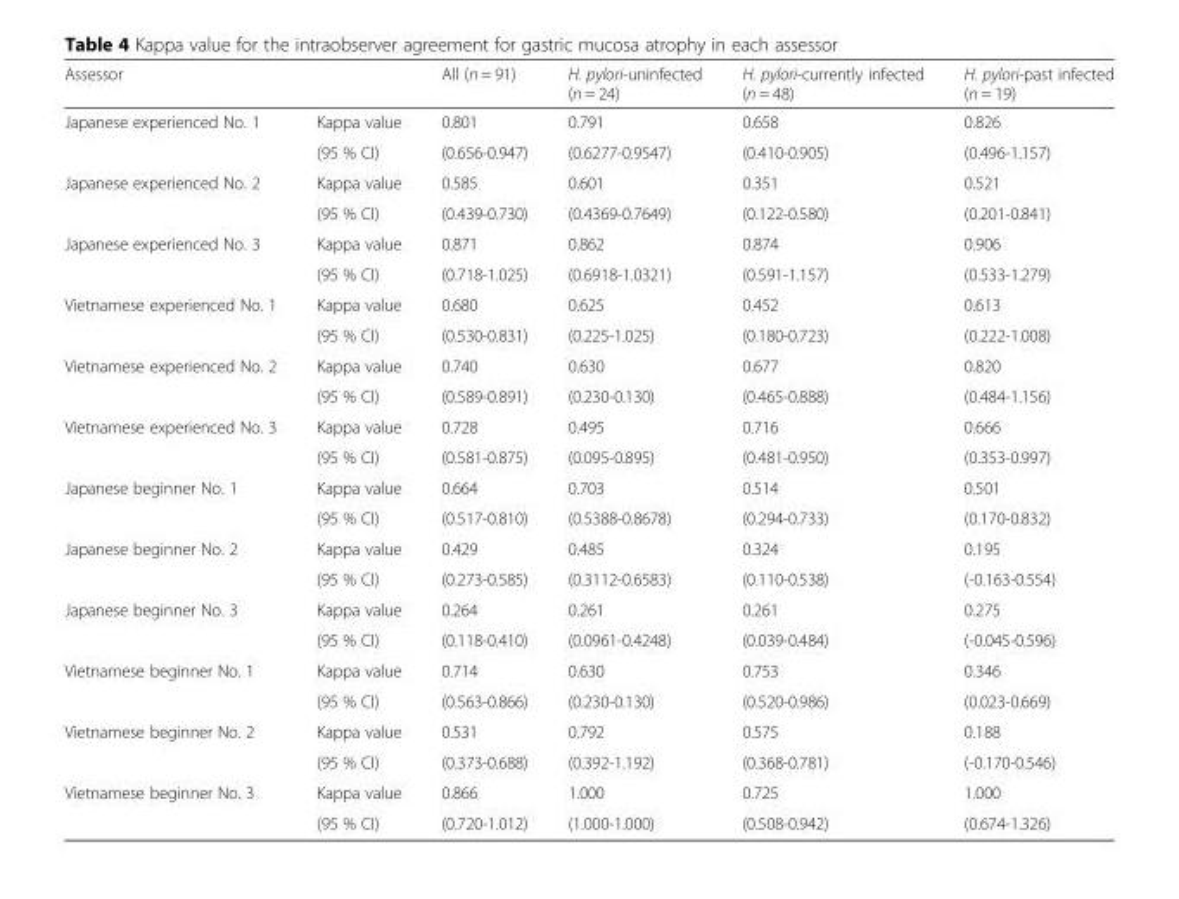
<table><thead><tr><td>Assessor</td><td></td><td>All (n = 91)</td><td>H. pylori-uninfected (n = 24)</td><td>H. pylori-currently infected (n = 48)</td><td>H. pylori-past infected (n = 19)</td></tr></thead><tbody><tr><td rowspan="2">Japanese experienced No. 1</td><td>Kappa value</td><td>0.801</td><td>0.791</td><td>0.658</td><td>0.826</td></tr><tr><td>(95 % CI)</td><td>(0.656-0.947)</td><td>(0.6277-0.9547)</td><td>(0.410-0.905)</td><td>(0.496-1.157)</td></tr><tr><td rowspan="2">Japanese experienced No. 2</td><td>Kappa value</td><td>0.585</td><td>0.601</td><td>0.351</td><td>0.521</td></tr><tr><td>(95 % CI)</td><td>(0.439-0.730)</td><td>(0.4369-0.7649)</td><td>(0.122-0.580)</td><td>(0.201-0.841)</td></tr><tr><td rowspan="2">Japanese experienced No. 3</td><td>Kappa value</td><td>0.871</td><td>0.862</td><td>0.874</td><td>0.906</td></tr><tr><td>(95 % CI)</td><td>(0.718-1.025)</td><td>(0.6918-1.0321)</td><td>(0.591-1.157)</td><td>(0.533-1.279)</td></tr><tr><td rowspan="2">Vietnamese experienced No. 1</td><td>Kappa value</td><td>0.680</td><td>0.625</td><td>0.452</td><td>0.613</td></tr><tr><td>(95 % CI)</td><td>(0.530-0.831)</td><td>(0.225-1.025)</td><td>(0.180-0.723)</td><td>(0.222-1.008)</td></tr><tr><td rowspan="2">Vietnamese experienced No. 2</td><td>Kappa value</td><td>0.740</td><td>0.630</td><td>0.677</td><td>0.820</td></tr><tr><td>(95 % CI)</td><td>(0.589-0.891)</td><td>(0.230-0.130)</td><td>(0.465-0.888)</td><td>(0.484-1.156)</td></tr><tr><td rowspan="2">Vietnamese experienced No. 3</td><td>Kappa value</td><td>0.728</td><td>0.495</td><td>0.716</td><td>0.666</td></tr><tr><td>(95 % CI)</td><td>(0.581-0.875)</td><td>(0.095-0.895)</td><td>(0.481-0.950)</td><td>(0.353-0.997)</td></tr><tr><td rowspan="2">Japanese beginner No. 1</td><td>Kappa value</td><td>0.664</td><td>0.703</td><td>0.514</td><td>0.501</td></tr><tr><td>(95 % CI)</td><td>(0.517-0.810)</td><td>(0.5388-0.8678)</td><td>(0.294-0.733)</td><td>(0.170-0.832)</td></tr><tr><td rowspan="2">Japanese beginner No. 2</td><td>Kappa value</td><td>0.429</td><td>0.485</td><td>0.324</td><td>0.195</td></tr><tr><td>(95 % CI)</td><td>(0.273-0.585)</td><td>(0.3112-0.6583)</td><td>(0.110-0.538)</td><td>(-0.163-0.554)</td></tr><tr><td rowspan="2">Japanese beginner No. 3</td><td>Kappa value</td><td>0.264</td><td>0.261</td><td>0.261</td><td>0.275</td></tr><tr><td>(95 % CI)</td><td>(0.118-0.410)</td><td>(0.0961-0.4248)</td><td>(0.039-0.484)</td><td>(-0.045-0.596)</td></tr><tr><td rowspan="2">Vietnamese beginner No. 1</td><td>Kappa value</td><td>0.714</td><td>0.630</td><td>0.753</td><td>0.346</td></tr><tr><td>(95 % CI)</td><td>(0.563-0.866)</td><td>(0.230-0.130)</td><td>(0.520-0.986)</td><td>(0.023-0.669)</td></tr><tr><td rowspan="2">Vietnamese beginner No. 2</td><td>Kappa value</td><td>0.531</td><td>0.792</td><td>0.575</td><td>0.188</td></tr><tr><td>(95 % CI)</td><td>(0.373-0.688)</td><td>(0.392-1.192)</td><td>(0.368-0.781)</td><td>(-0.170-0.546)</td></tr><tr><td rowspan="2">Vietnamese beginner No. 3</td><td>Kappa value</td><td>0.866</td><td>1.000</td><td>0.725</td><td>1.000</td></tr><tr><td>(95 % CI)</td><td>(0.720-1.012)</td><td>(1.000-1.000)</td><td>(0.508-0.942)</td><td>(0.674-1.326)</td></tr></tbody></table>